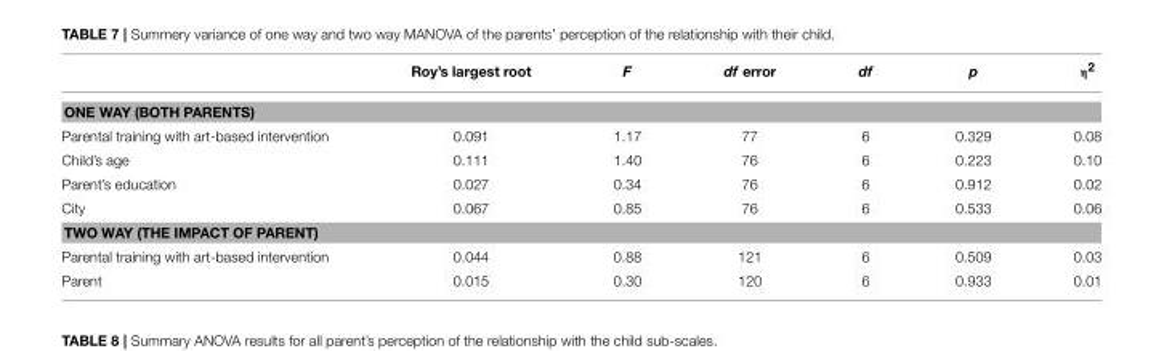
<table><thead><tr><td></td><td>Roy’s largest root</td><td>F</td><td>df error</td><td>df</td><td>p</td><td>η<sup>2</sup></td></tr></thead><tbody><tr><td colspan="7">ONE WAY (BOTH PARENTS)</td></tr><tr><td>Parental training with art-based intervention</td><td>0.091</td><td>1.17</td><td>77</td><td>6</td><td>0.329</td><td>0.08</td></tr><tr><td>Child’s age</td><td>0.111</td><td>1.40</td><td>76</td><td>6</td><td>0.223</td><td>0.10</td></tr><tr><td>Parent’s education</td><td>0.027</td><td>0.34</td><td>76</td><td>6</td><td>0.912</td><td>0.02</td></tr><tr><td>City</td><td>0.067</td><td>0.85</td><td>76</td><td>6</td><td>0.533</td><td>0.06</td></tr><tr><td colspan="7">TWO WAY (THE IMPACT OF PARENT)</td></tr><tr><td>Parental training with art-based intervention</td><td>0.044</td><td>0.88</td><td>121</td><td>6</td><td>0.509</td><td>0.03</td></tr><tr><td>Parent</td><td>0.015</td><td>0.30</td><td>120</td><td>6</td><td>0.933</td><td>0.01</td></tr></tbody></table>